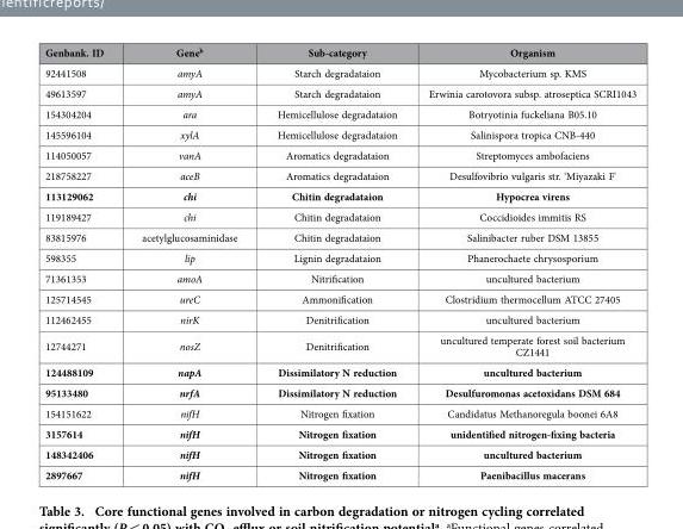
<table><thead><tr><td>Genbank. ID</td><td>Gene<sup>b</sup></td><td>Sub-category</td><td>Organism</td></tr></thead><tbody><tr><td>92441508</td><td>amyA</td><td>Starch degradataion</td><td>Mycobacterium sp. KMS</td></tr><tr><td>49613597</td><td>amyA</td><td>Starch degradataion</td><td>Erwinia carotovora subsp. atroseptica SCRI1043</td></tr><tr><td>154304204</td><td>ara</td><td>Hemicellulose degradataion</td><td>Botryotinia fuckeliana B05.10</td></tr><tr><td>145596104</td><td>xylA</td><td>Hemicellulose degradataion</td><td>Salinispora tropica CNB-440</td></tr><tr><td>114050057</td><td>vanA</td><td>Aromatics degradataion</td><td>Streptomyces ambofaciens</td></tr><tr><td>218758227</td><td>aceB</td><td>Aromatics degradataion</td><td>Desulfovibrio vulgaris str. ‘Miyazaki F&#x27;</td></tr><tr><td>113129062</td><td>chi</td><td>Chitin degradataion</td><td>Hypocrea virens</td></tr><tr><td>119189427</td><td>chi</td><td>Chitin degradataion</td><td>Coccidioides immitis RS</td></tr><tr><td>83815976</td><td>acetylglucosaminidase</td><td>Chitin degradataion</td><td>Salinibacter ruber DSM 13855</td></tr><tr><td>598355</td><td>lip</td><td>Lignin degradataion</td><td>Phanerochaete chrysosporium</td></tr><tr><td>71361353</td><td>amoA</td><td>Nitrification</td><td>uncultured bacterium</td></tr><tr><td>125714545</td><td>ureC</td><td>Ammonification</td><td>Clostridium thermocellum ATCC 27405</td></tr><tr><td>112462455</td><td>nirK</td><td>Denitrification</td><td>uncultured bacterium</td></tr><tr><td>12744271</td><td>nosZ</td><td>Denitrification</td><td>uncultured temperate forest soil bacterium CZ1441</td></tr><tr><td>124488109</td><td>napA</td><td>Dissimilatory N reduction</td><td>uncultured bacterium</td></tr><tr><td>95133480</td><td>nrfA</td><td>Dissimilatory N reduction</td><td>Desulfuromonas acetoxidans DSM 684</td></tr><tr><td>154151622</td><td>nifH</td><td>Nitrogen fixation</td><td>Candidatus Methanoregula boonei 6A8</td></tr><tr><td>3157614</td><td>nifH</td><td>Nitrogen fixation</td><td>unidentified nitrogen-fixing bacteria</td></tr><tr><td>148342406</td><td>nifH</td><td>Nitrogen fixation</td><td>uncultured bacterium</td></tr><tr><td>2897667</td><td>nifH</td><td>Nitrogen fixation</td><td>Paenibacillus macerans</td></tr></tbody></table>